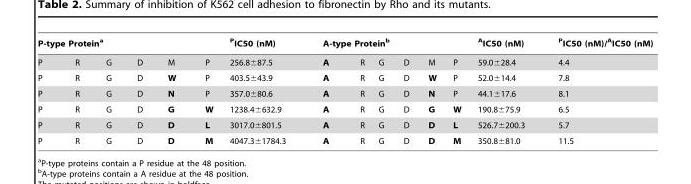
<table><thead><tr><td colspan="6">P-type Protein<sup>a</sup></td><td rowspan="2"><sup>P</sup>IC50 (nM) 256.8±87.5</td><td colspan="6">A-type Protein<sup>b</sup></td><td rowspan="2"><sup>A</sup>IC50 (nM) 59.0±28.4</td><td rowspan="2"><sup>P</sup>IC50 (nM)/<sup>A</sup>IC50 (nM) 4.4</td></tr><tr><td>P</td><td>R</td><td>G</td><td>D</td><td>M</td><td>P</td><td>A</td><td>R</td><td>G</td><td>D</td><td>M</td><td>P</td></tr></thead><tbody><tr><td>P</td><td>R</td><td>G</td><td>D</td><td>W</td><td>P</td><td>403.5±43.9</td><td>A</td><td>R</td><td>G</td><td>D</td><td>W</td><td>P</td><td>52.0±14.4</td><td>7.8</td></tr><tr><td>P</td><td>R</td><td>G</td><td>D</td><td>N</td><td>P</td><td>357.0±80.6</td><td>A</td><td>R</td><td>G</td><td>D</td><td>N</td><td>P</td><td>44.1±17.6</td><td>8.1</td></tr><tr><td>P</td><td>R</td><td>G</td><td>D</td><td>G</td><td>W</td><td>1238.4±632.9</td><td>A</td><td>R</td><td>G</td><td>D</td><td>G</td><td>W</td><td>190.8±75.9</td><td>6.5</td></tr><tr><td>P</td><td>R</td><td>G</td><td>D</td><td>D</td><td>L</td><td>3017.0±801.5</td><td>A</td><td>R</td><td>G</td><td>D</td><td>D</td><td>L</td><td>526.7±200.3</td><td>5.7</td></tr><tr><td>P</td><td>R</td><td>G</td><td>D</td><td>D</td><td>M</td><td>4047.3±1784.3</td><td>A</td><td>R</td><td>G</td><td>D</td><td>D</td><td>M</td><td>350.8±81.0</td><td>11.5</td></tr></tbody></table>